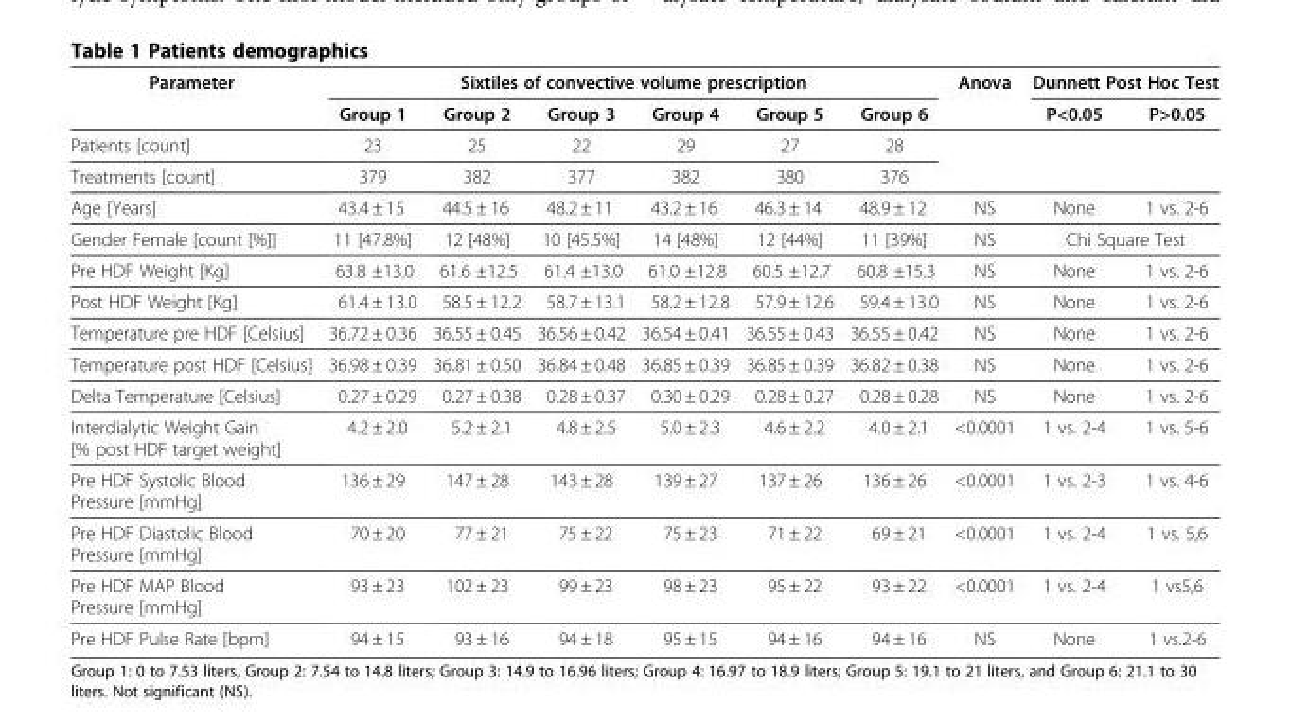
<table><thead><tr><td rowspan="2">Parameter</td><td colspan="6">Sixtiles of convective volume prescription</td><td rowspan="2">Anova</td><td colspan="2">Dunnett Post Hoc Test</td></tr><tr><td>Group 1</td><td>Group 2</td><td>Group 3</td><td>Group 4</td><td>Group 5</td><td>Group 6</td><td>P&lt;0.05</td><td>P&gt;0.05</td></tr></thead><tbody><tr><td>Patients [count]</td><td>23</td><td>25</td><td>22</td><td>29</td><td>27</td><td>28</td><td rowspan="2" colspan="3"></td></tr><tr><td>Treatments [count]</td><td>379</td><td>382</td><td>377</td><td>382</td><td>380</td><td>376</td></tr><tr><td>Age [Years]</td><td>43.4 ± 15</td><td>44.5 ± 16</td><td>48.2 ± 11</td><td>43.2 ± 16</td><td>46.3 ± 14</td><td>48.9 ± 12</td><td>NS</td><td>None</td><td>1 vs. 2-6</td></tr><tr><td>Gender Female [count [%]]</td><td>11 [47.8%]</td><td>12 [48%]</td><td>10 [45.5%]</td><td>14 [48%]</td><td>12 [44%]</td><td>11 [39%]</td><td>NS</td><td colspan="2">Chi Square Test</td></tr><tr><td>Pre HDF Weight [Kg]</td><td>63.8 ±13.0</td><td>61.6 ±12.5</td><td>61.4 ±13.0</td><td>61.0 ±12.8</td><td>60.5 ±12.7</td><td>60.8 ±15.3</td><td>NS</td><td>None</td><td>1 vs. 2-6</td></tr><tr><td>Post HDF Weight [Kg]</td><td>61.4 ± 13.0</td><td>58.5 ± 12.2</td><td>58.7 ± 13.1</td><td>58.2 ± 12.8</td><td>57.9 ± 12.6</td><td>59.4 ± 13.0</td><td>NS</td><td>None</td><td>1 vs. 2-6</td></tr><tr><td>Temperature pre HDF [Celsius]</td><td>36.72 ± 0.36</td><td>36.55 ± 0.45</td><td>36.56 ± 0.42</td><td>36.54 ± 0.41</td><td>36.55 ± 0.43</td><td>36.55 ± 0.42</td><td>NS</td><td>None</td><td>1 vs. 2-6</td></tr><tr><td>Temperature post HDF [Celsius]</td><td>36.98 ± 0.39</td><td>36.81 ± 0.50</td><td>36.84 ± 0.48</td><td>36.85 ± 0.39</td><td>36.85 ± 0.39</td><td>36.82 ± 0.38</td><td>NS</td><td>None</td><td>1 vs. 2-6</td></tr><tr><td>Delta Temperature [Celsius]</td><td>0.27 ± 0.29</td><td>0.27 ± 0.38</td><td>0.28 ± 0.37</td><td>0.30 ± 0.29</td><td>0.28 ± 0.27</td><td>0.28 ± 0.28</td><td>NS</td><td>None</td><td>1 vs. 2-6</td></tr><tr><td>Interdialytic Weight Gain [% post HDF target weight]</td><td>4.2 ± 2.0</td><td>5.2 ± 2.1</td><td>4.8 ± 2.5</td><td>5.0 ± 2.3</td><td>4.6 ± 2.2</td><td>4.0 ± 2.1</td><td>&lt;0.0001</td><td>1 vs. 2-4</td><td>1 vs. 5-6</td></tr><tr><td>Pre HDF Systolic Blood Pressure [mmHg]</td><td>136 ± 29</td><td>147 ± 28</td><td>143 ± 28</td><td>139 ± 27</td><td>137 ± 26</td><td>136 ± 26</td><td>&lt;0.0001</td><td>1 vs. 2-3</td><td>1 vs. 4-6</td></tr><tr><td>Pre HDF Diastolic Blood Pressure [mmHg]</td><td>70 ± 20</td><td>77 ± 21</td><td>75 ± 22</td><td>75 ± 23</td><td>71 ± 22</td><td>69 ± 21</td><td>&lt;0.0001</td><td>1 vs. 2-4</td><td>1 vs. 5,6</td></tr><tr><td>Pre HDF MAP Blood Pressure [mmHg]</td><td>93 ± 23</td><td>102 ± 23</td><td>99 ± 23</td><td>98 ± 23</td><td>95 ± 22</td><td>93 ± 22</td><td>&lt;0.0001</td><td>1 vs. 2-4</td><td>1 vs5,6</td></tr><tr><td>Pre HDF Pulse Rate [bpm]</td><td>94 ± 15</td><td>93 ± 16</td><td>94 ± 18</td><td>95 ± 15</td><td>94 ± 16</td><td>94 ± 16</td><td>NS</td><td>None</td><td>1 vs.2-6</td></tr></tbody></table>